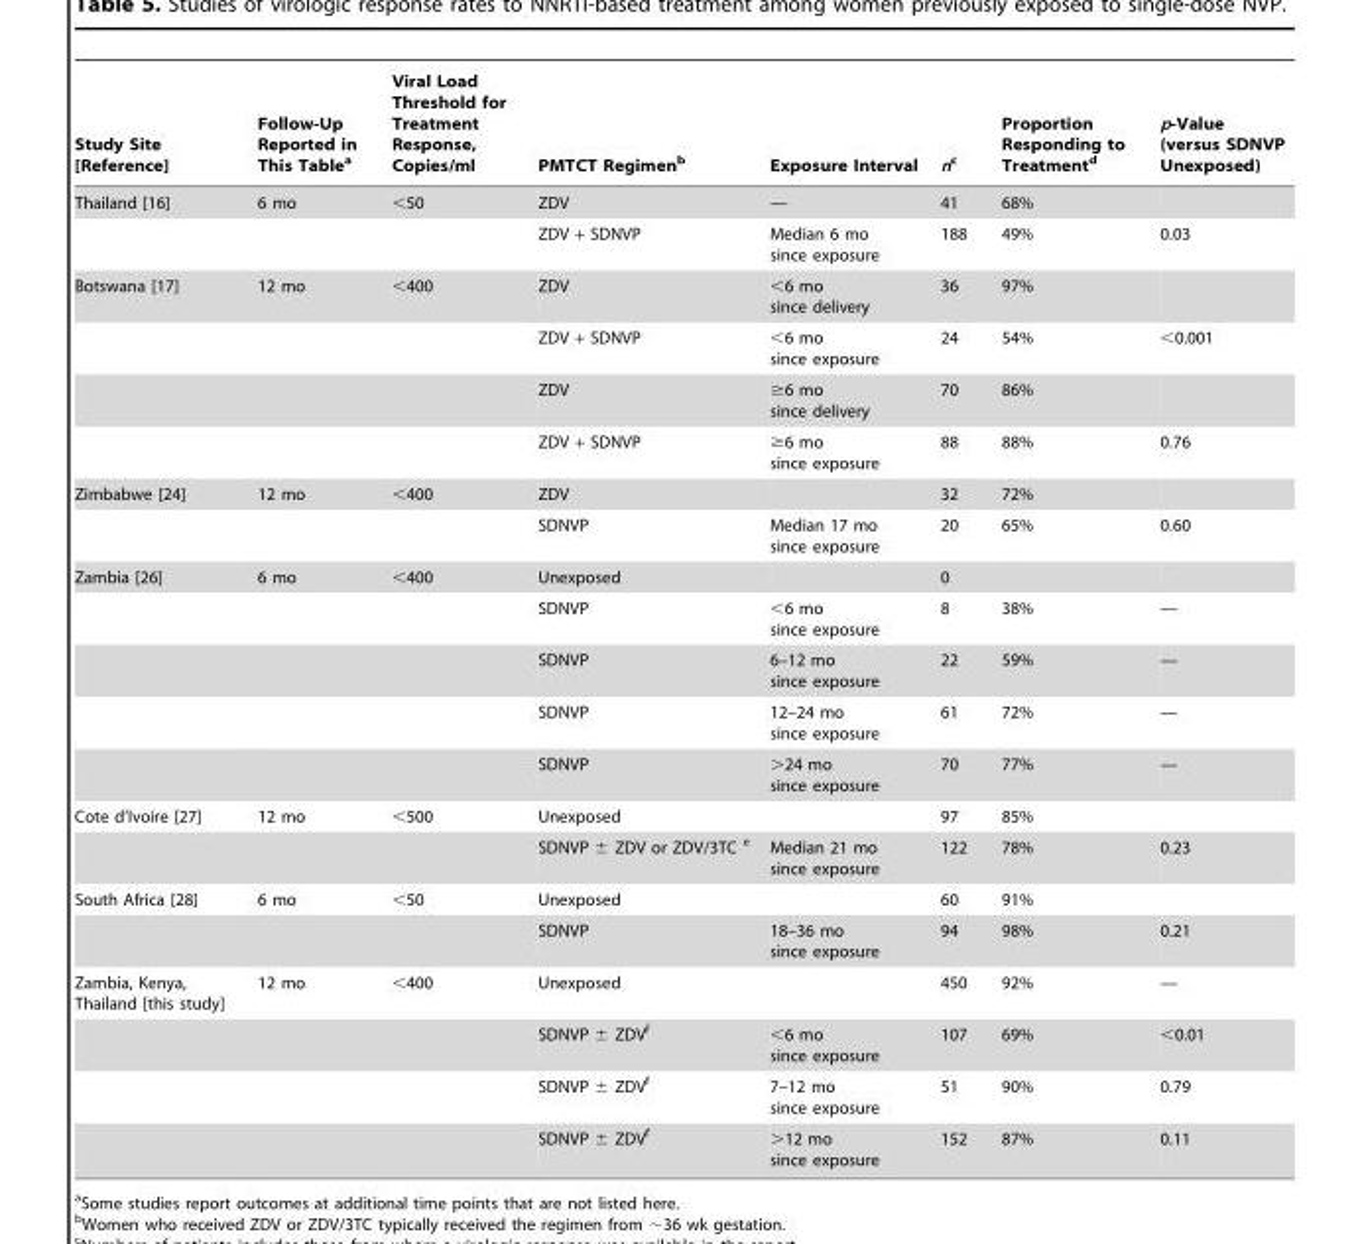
<table><thead><tr><td>Study Site [Reference]</td><td>Follow-Up Reported in This Table<sup>a</sup></td><td>Viral Load Threshold for Treatment Response, Copies/ml</td><td>PMTCT Regimen<sup>b</sup></td><td>Exposure Interval</td><td>nc</td><td>Proportion Responding to Treatment<sup>d</sup></td><td>p-Value (versus SDNVP Unexposed)</td></tr></thead><tbody><tr><td rowspan="2">Thailand [16]</td><td>6 mo</td><td>&lt;50</td><td>ZDV</td><td>—</td><td>41</td><td>68%</td><td></td></tr><tr><td></td><td></td><td>ZDV + SDNVP</td><td>Median 6 mo since exposure</td><td>188</td><td>49%</td><td>0.03</td></tr><tr><td rowspan="4">Botswana [17]</td><td>12 mo</td><td>&lt;400</td><td>ZDV</td><td>&lt;6 mo since delivery</td><td>36</td><td>97%</td><td></td></tr><tr><td></td><td></td><td>ZDV + SDNVP</td><td>&lt;6 mo since exposure</td><td>24</td><td>54%</td><td>&lt;0.001</td></tr><tr><td></td><td></td><td>ZDV</td><td>≥6 mo since delivery</td><td>70</td><td>86%</td><td></td></tr><tr><td></td><td></td><td>ZDV + SDNVP</td><td>≥6 mo since exposure</td><td>88</td><td>88%</td><td>0.76</td></tr><tr><td rowspan="2">Zimbabwe [24]</td><td>12 mo</td><td>&lt;400</td><td>ZDV</td><td></td><td>32</td><td>72%</td><td></td></tr><tr><td></td><td></td><td>SDNVP</td><td>Median 17 mo since exposure</td><td>20</td><td>65%</td><td>0.60</td></tr><tr><td rowspan="5">Zambia [26]</td><td>6 mo</td><td>&lt;400</td><td>Unexposed</td><td></td><td>0</td><td></td><td></td></tr><tr><td></td><td></td><td>SDNVP</td><td>&lt;6 mo since exposure</td><td>8</td><td>38%</td><td>—</td></tr><tr><td></td><td></td><td>SDNVP</td><td>6–12 mo since exposure</td><td>22</td><td>59%</td><td>—</td></tr><tr><td></td><td></td><td>SDNVP</td><td>12–24 mo since exposure</td><td>61</td><td>72%</td><td>—</td></tr><tr><td></td><td></td><td>SDNVP</td><td>&gt;24 mo since exposure</td><td>70</td><td>77%</td><td>—</td></tr><tr><td rowspan="2">Cote d’Ivoire [27]</td><td>12 mo</td><td>&lt;500</td><td>Unexposed</td><td></td><td>97</td><td>85%</td><td></td></tr><tr><td></td><td></td><td>SDNVP ± ZDV or ZDV/3TC e</td><td>Median 21 mo since exposure</td><td>122</td><td>78%</td><td>0.23</td></tr><tr><td rowspan="2">South Africa [28]</td><td>6 mo</td><td>&lt;50</td><td>Unexposed</td><td></td><td>60</td><td>91%</td><td></td></tr><tr><td></td><td></td><td>SDNVP</td><td>18–36 mo since exposure</td><td>94</td><td>98%</td><td>0.21</td></tr><tr><td rowspan="4">Zambia, Kenya, Thailand [this study]</td><td>12 mo</td><td>&lt;400</td><td>Unexposed</td><td></td><td>450</td><td>92%</td><td>—</td></tr><tr><td></td><td></td><td>SDNVP ± ZDV<sup>f</sup></td><td>&lt;6 mo since exposure</td><td>107</td><td>69%</td><td>&lt;0.01</td></tr><tr><td></td><td></td><td>SDNVP ± ZDV<sup>f</sup></td><td>7–12 mo since exposure</td><td>51</td><td>90%</td><td>0.79</td></tr><tr><td></td><td></td><td>SDNVP ± ZDV<sup>f</sup></td><td>&gt;12 mo since exposure</td><td>152</td><td>87%</td><td>0.11</td></tr></tbody></table>